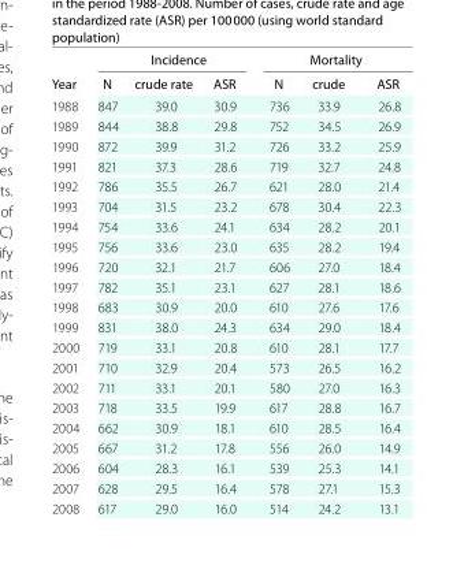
<table><thead><tr><td rowspan="2">Year</td><td colspan="3">Incidence</td><td colspan="3">Mortality</td></tr><tr><td>N</td><td>crude rate</td><td>AsR</td><td>N</td><td>crude</td><td>AsR</td></tr></thead><tbody><tr><td>1988</td><td>847</td><td>39.0</td><td>30.9</td><td>736</td><td>33.9</td><td>26.8</td></tr><tr><td>1989</td><td>844</td><td>38.8</td><td>29.8</td><td>752</td><td>34.5</td><td>26.9</td></tr><tr><td>1990</td><td>872</td><td>39.9</td><td>31.2</td><td>726</td><td>33.2</td><td>25.9</td></tr><tr><td>1991</td><td>821</td><td>37.3</td><td>28.6</td><td>719</td><td>32.7</td><td>24.8</td></tr><tr><td>1992</td><td>786</td><td>35.5</td><td>26.7</td><td>621</td><td>28.0</td><td>21.4</td></tr><tr><td>1993</td><td>704</td><td>31.5</td><td>23.2</td><td>678</td><td>30.4</td><td>22.3</td></tr><tr><td>1994</td><td>754</td><td>33.6</td><td>24.1</td><td>634</td><td>28.2</td><td>20.1</td></tr><tr><td>1995</td><td>756</td><td>33.6</td><td>23.0</td><td>635</td><td>28.2</td><td>19.4</td></tr><tr><td>1996</td><td>720</td><td>32.1</td><td>21.7</td><td>606</td><td>27.0</td><td>18.4</td></tr><tr><td>1997</td><td>782</td><td>35.1</td><td>23.1</td><td>627</td><td>28.1</td><td>18.6</td></tr><tr><td>1998</td><td>683</td><td>30.9</td><td>20.0</td><td>610</td><td>27.6</td><td>17.6</td></tr><tr><td>1999</td><td>831</td><td>38.0</td><td>24.3</td><td>634</td><td>29.0</td><td>18.4</td></tr><tr><td>2000</td><td>719</td><td>33.1</td><td>20.8</td><td>610</td><td>28.1</td><td>17.7</td></tr><tr><td>2001</td><td>710</td><td>32.9</td><td>20.4</td><td>573</td><td>26.5</td><td>16.2</td></tr><tr><td>2002</td><td>711</td><td>33.1</td><td>20.1</td><td>580</td><td>27.0</td><td>16.3</td></tr><tr><td>2003</td><td>718</td><td>33.5</td><td>19.9</td><td>617</td><td>28.8</td><td>16.7</td></tr><tr><td>2004</td><td>662</td><td>30.9</td><td>18.1</td><td>610</td><td>28.5</td><td>16.4</td></tr><tr><td>2005</td><td>667</td><td>31.2</td><td>17.8</td><td>556</td><td>26.0</td><td>14.9</td></tr><tr><td>2006</td><td>604</td><td>28.3</td><td>16.1</td><td>539</td><td>25.3</td><td>14.1</td></tr><tr><td>2007</td><td>628</td><td>29.5</td><td>16.4</td><td>578</td><td>27.1</td><td>15.3</td></tr><tr><td>2008</td><td>617</td><td>29.0</td><td>16.0</td><td>514</td><td>24.2</td><td>13.1</td></tr></tbody></table>